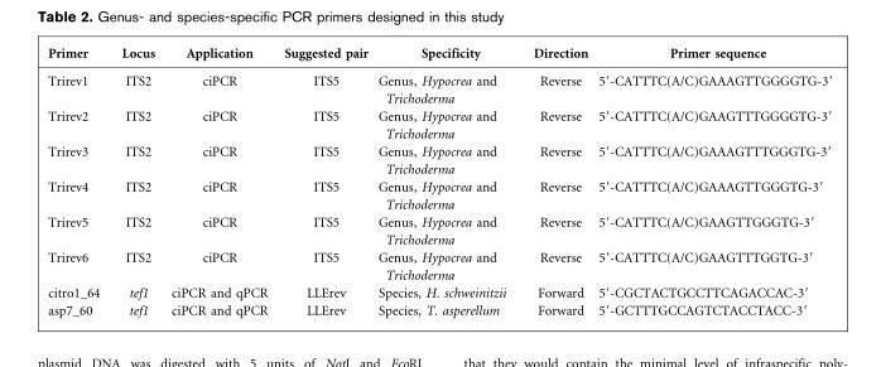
<table><thead><tr><td>Primer</td><td>Locus</td><td>Application</td><td>Suggested pair</td><td>Specificity</td><td>Direction</td><td>Primer sequence</td></tr></thead><tbody><tr><td>Trirev1</td><td>ITS2</td><td>ciPCR</td><td>ITS5</td><td>Genus, Hypocrea and Trichoderma</td><td>Reverse</td><td>5′-CATTTC(A/C)GAAAGTTGGGGTG-3′</td></tr><tr><td>Trirev2</td><td>ITS2</td><td>ciPCR</td><td>ITS5</td><td>Genus, Hypocrea and Trichoderma</td><td>Reverse</td><td>5′-CATTTC(A/C)GAAGTTTGGGGTG-3′</td></tr><tr><td>Trirev3</td><td>ITS2</td><td>ciPCR</td><td>ITS5</td><td>Genus, Hypocrea and Trichoderma</td><td>Reverse</td><td>5′-CATTTC(A/C)GAAAGTTTGGGTG-3′</td></tr><tr><td>Trirev4</td><td>ITS2</td><td>ciPCR</td><td>ITS5</td><td>Genus, Hypocrea and Trichoderma</td><td>Reverse</td><td>5′-CATTTC(A/C)GAAAGTTGGGTG-3′</td></tr><tr><td>Trirev5</td><td>ITS2</td><td>ciPCR</td><td>ITS5</td><td>Genus, Hypocrea and Trichoderma</td><td>Reverse</td><td>5′-CATTTC(A/C)GAAGTTGGGTG-3′</td></tr><tr><td>Trirev6</td><td>ITS2</td><td>ciPCR</td><td>ITS5</td><td>Genus, Hypocrea and Trichoderma</td><td>Reverse</td><td>5′-CATTTC(A/C)GAAGTTTGGTG-3′</td></tr><tr><td>citro1_64</td><td>tef1</td><td>ciPCR and qPCR</td><td>LLErev</td><td>Species, H. schweinitzii</td><td>Forward</td><td>5′-CGCTACTGCCTTCAGACCAC-3′</td></tr><tr><td>asp7_60</td><td>tef1</td><td>ciPCR and qPCR</td><td>LLErev</td><td>Species, T. asperellum</td><td>Forward</td><td>5′-GCTTTGCCAGTCTACCTACC-3′</td></tr></tbody></table>